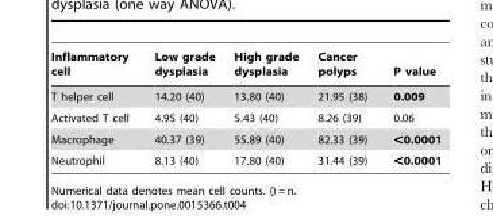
<table><thead><tr><td>Inflammatory cell</td><td>Low grade dysplasia</td><td>High grade dysplasia</td><td>Cancer polyps</td><td>P value</td></tr></thead><tbody><tr><td>T helper cell</td><td>14.20 (40)</td><td>13.80 (40)</td><td>21.95 (38)</td><td>0.009</td></tr><tr><td>Activated T cell</td><td>4.95 (40)</td><td>5.43 (40)</td><td>8.26 (39)</td><td>0.06</td></tr><tr><td>Macrophage</td><td>40.37 (39)</td><td>55.89 (40)</td><td>82.33 (39)</td><td>&lt;0.0001</td></tr><tr><td>Neutrophil</td><td>8.13 (40)</td><td>17.80 (40)</td><td>31.44 (39)</td><td>&lt;0.0001</td></tr></tbody></table>